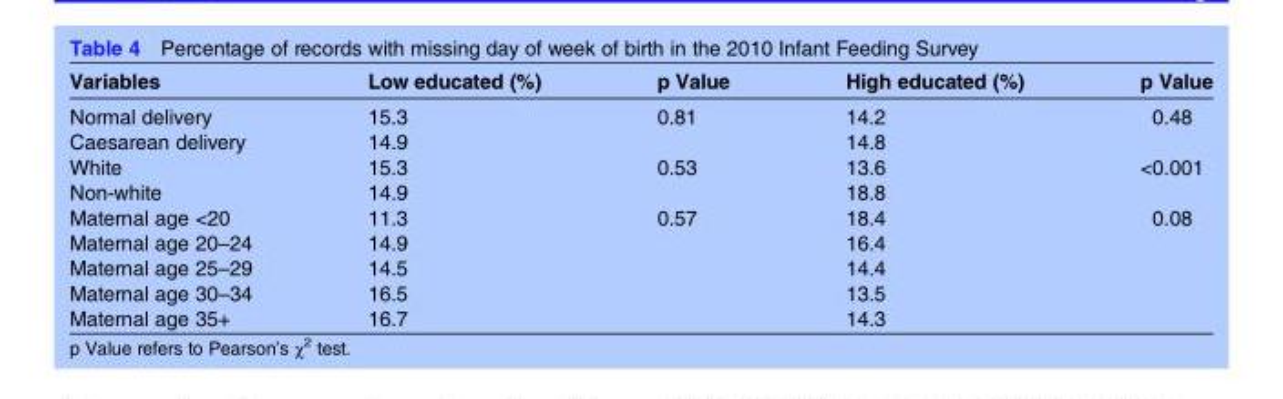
<table><thead><tr><td>Variables</td><td>Low educated (%)</td><td>p Value</td><td>High educated (%)</td><td>p Value</td></tr></thead><tbody><tr><td>Normal delivery</td><td>15.3</td><td rowspan="2">0.81</td><td>14.2</td><td rowspan="2">0.48</td></tr><tr><td>Caesarean delivery</td><td>14.9</td><td>14.8</td></tr><tr><td>White</td><td>15.3</td><td rowspan="2">0.53</td><td>13.6</td><td rowspan="2">&lt;0.001</td></tr><tr><td>Non-white</td><td>14.9</td><td>18.8</td></tr><tr><td>Maternal age &lt;20</td><td>11.3</td><td rowspan="5">0.57</td><td>18.4</td><td rowspan="5">0.08</td></tr><tr><td>Maternal age 20–24</td><td>14.9</td><td>16.4</td></tr><tr><td>Maternal age 25–29</td><td>14.5</td><td>14.4</td></tr><tr><td>Maternal age 30–34</td><td>16.5</td><td>13.5</td></tr><tr><td>Maternal age 35+</td><td>16.7</td><td>14.3</td></tr></tbody></table>